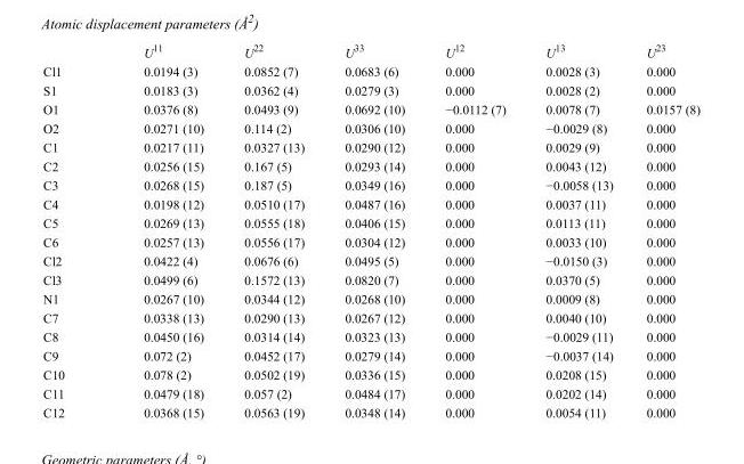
<table><thead><tr><td></td><td>U<sup>11</sup></td><td>U<sup>22</sup></td><td>U<sup>33</sup></td><td>U<sup>12</sup></td><td>U<sup>13</sup></td><td>U<sup>23</sup></td></tr></thead><tbody><tr><td>Cl1</td><td>0.0194 (3)</td><td>0.0852 (7)</td><td>0.0683 (6)</td><td>0.000</td><td>0.0028 (3)</td><td>0.000</td></tr><tr><td>S1</td><td>0.0183 (3)</td><td>0.0362 (4)</td><td>0.0279 (3)</td><td>0.000</td><td>0.0028 (2)</td><td>0.000</td></tr><tr><td>O1</td><td>0.0376 (8)</td><td>0.0493 (9)</td><td>0.0692 (10)</td><td>−0.0112 (7)</td><td>0.0078 (7)</td><td>0.0157 (8)</td></tr><tr><td>O2</td><td>0.0271 (10)</td><td>0.114 (2)</td><td>0.0306 (10)</td><td>0.000</td><td>−0.0029 (8)</td><td>0.000</td></tr><tr><td>C1</td><td>0.0217 (11)</td><td>0.0327 (13)</td><td>0.0290 (12)</td><td>0.000</td><td>0.0029 (9)</td><td>0.000</td></tr><tr><td>C2</td><td>0.0256 (15)</td><td>0.167 (5)</td><td>0.0293 (14)</td><td>0.000</td><td>0.0043 (12)</td><td>0.000</td></tr><tr><td>C3</td><td>0.0268 (15)</td><td>0.187 (5)</td><td>0.0349 (16)</td><td>0.000</td><td>−0.0058 (13)</td><td>0.000</td></tr><tr><td>C4</td><td>0.0198 (12)</td><td>0.0510 (17)</td><td>0.0487 (16)</td><td>0.000</td><td>0.0037 (11)</td><td>0.000</td></tr><tr><td>C5</td><td>0.0269 (13)</td><td>0.0555 (18)</td><td>0.0406 (15)</td><td>0.000</td><td>0.0113 (11)</td><td>0.000</td></tr><tr><td>C6</td><td>0.0257 (13)</td><td>0.0556 (17)</td><td>0.0304 (12)</td><td>0.000</td><td>0.0033 (10)</td><td>0.000</td></tr><tr><td>Cl2</td><td>0.0422 (4)</td><td>0.0676 (6)</td><td>0.0495 (5)</td><td>0.000</td><td>−0.0150 (3)</td><td>0.000</td></tr><tr><td>Cl3</td><td>0.0499 (6)</td><td>0.1572 (13)</td><td>0.0820 (7)</td><td>0.000</td><td>0.0370 (5)</td><td>0.000</td></tr><tr><td>N1</td><td>0.0267 (10)</td><td>0.0344 (12)</td><td>0.0268 (10)</td><td>0.000</td><td>0.0009 (8)</td><td>0.000</td></tr><tr><td>C7</td><td>0.0338 (13)</td><td>0.0290 (13)</td><td>0.0267 (12)</td><td>0.000</td><td>0.0040 (10)</td><td>0.000</td></tr><tr><td>C8</td><td>0.0450 (16)</td><td>0.0314 (14)</td><td>0.0323 (13)</td><td>0.000</td><td>−0.0029 (11)</td><td>0.000</td></tr><tr><td>C9</td><td>0.072 (2)</td><td>0.0452 (17)</td><td>0.0279 (14)</td><td>0.000</td><td>−0.0037 (14)</td><td>0.000</td></tr><tr><td>C10</td><td>0.078 (2)</td><td>0.0502 (19)</td><td>0.0336 (15)</td><td>0.000</td><td>0.0208 (15)</td><td>0.000</td></tr><tr><td>C11</td><td>0.0479 (18)</td><td>0.057 (2)</td><td>0.0484 (17)</td><td>0.000</td><td>0.0202 (14)</td><td>0.000</td></tr><tr><td>C12</td><td>0.0368 (15)</td><td>0.0563 (19)</td><td>0.0348 (14)</td><td>0.000</td><td>0.0054 (11)</td><td>0.000</td></tr></tbody></table>